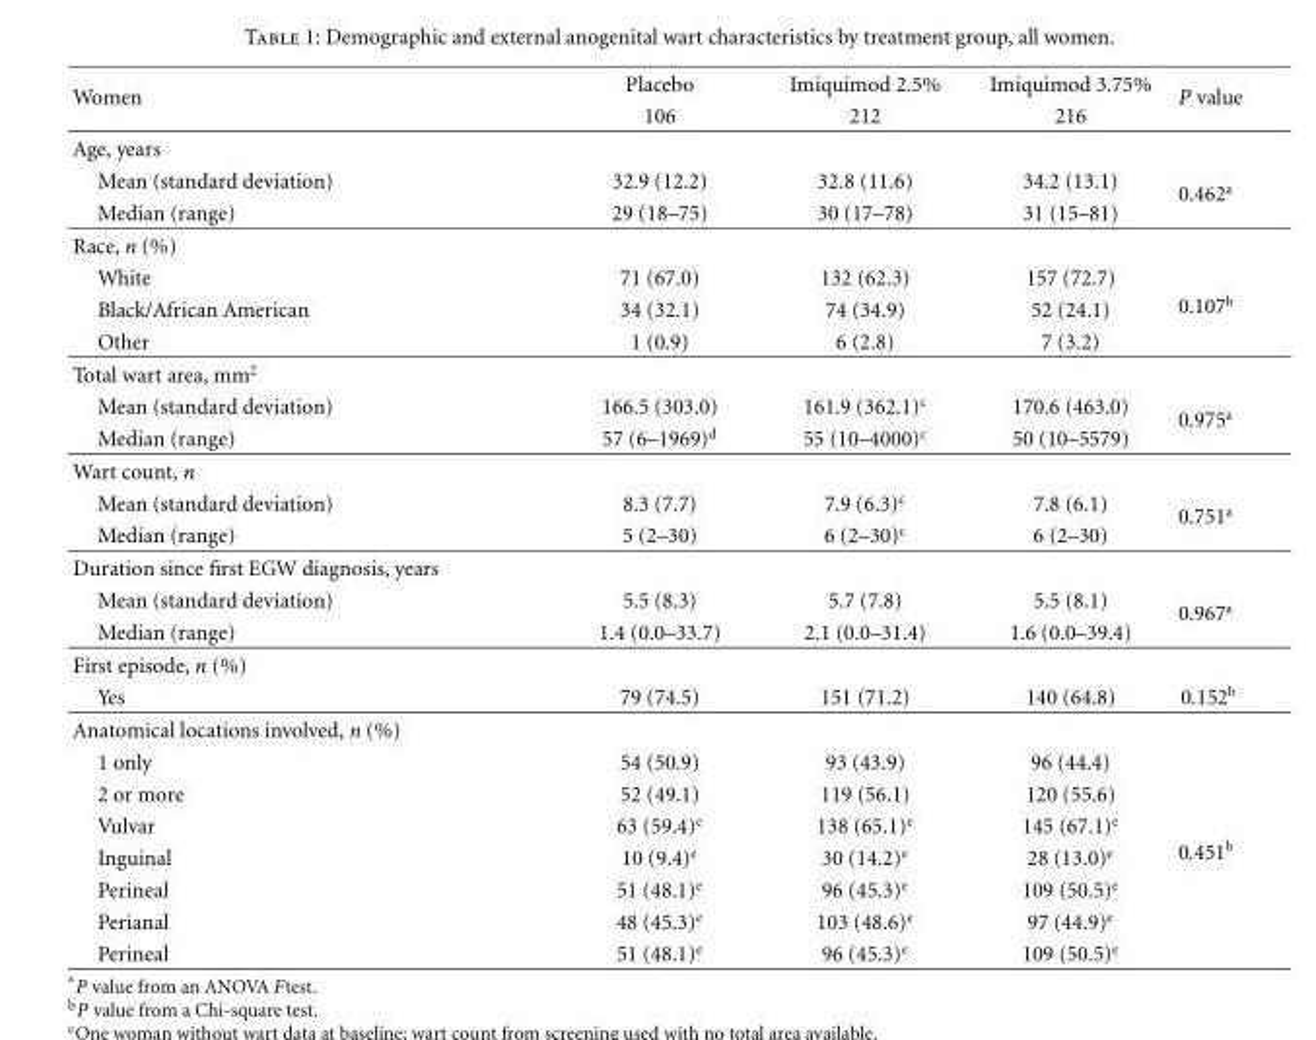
<table><thead><tr><td rowspan="2">Women</td><td rowspan="2">Placebo 106</td><td rowspan="2">Imiquimod 2.5% 212</td><td rowspan="2">Imiquimod 3.75% 216</td><td rowspan="2">P value</td></tr><tr></tr></thead><tbody><tr><td colspan="5">Age, years</td></tr><tr><td>Mean (standard deviation)</td><td>32.9 (12.2)</td><td>32.8 (11.6)</td><td>34.2 (13.1)</td><td rowspan="2">0.462a</td></tr><tr><td>Median (range)</td><td>29 (18–75)</td><td>30 (17–78)</td><td>31 (15–81)</td></tr><tr><td colspan="5">Race, n (%)</td></tr><tr><td>White</td><td>71 (67.0)</td><td>132 (62.3)</td><td>157 (72.7)</td><td rowspan="3">0.107<sup>b</sup></td></tr><tr><td>Black/African American</td><td>34 (32.1)</td><td>74 (34.9)</td><td>52 (24.1)</td></tr><tr><td>Other</td><td>1 (0.9)</td><td>6 (2.8)</td><td>7 (3.2)</td></tr><tr><td colspan="5">Total wart area, mm<sup>2</sup></td></tr><tr><td>Mean (standard deviation)</td><td>166.5 (303.0)</td><td>161.9 (362.1)<sup>c</sup></td><td>170.6 (463.0)</td><td rowspan="2">0.975<sup>a</sup></td></tr><tr><td>Median (range)</td><td>57 (6–1969)<sup>d</sup></td><td>55 (10–4000)<sup>c</sup></td><td>50 (10–5579)</td></tr><tr><td colspan="5">Wart count, n</td></tr><tr><td>Mean (standard deviation)</td><td>8.3 (7.7)</td><td>7.9 (6.3)<sup>c</sup></td><td>7.8 (6.1)</td><td rowspan="2">0.751<sup>a</sup></td></tr><tr><td>Median (range)</td><td>5 (2–30)</td><td>6 (2–30)<sup>c</sup></td><td>6 (2–30)</td></tr><tr><td colspan="5">Duration since first EGW diagnosis, years</td></tr><tr><td>Mean (standard deviation)</td><td>5.5 (8.3)</td><td>5.7 (7.8)</td><td>5.5 (8.1)</td><td rowspan="2">0.967<sup>a</sup></td></tr><tr><td>Median (range)</td><td>1.4 (0.0–33.7)</td><td>2.1 (0.0–31.4)</td><td>1.6 (0.0–39.4)</td></tr><tr><td colspan="5">First episode, n (%)</td></tr><tr><td>Yes</td><td>79 (74.5)</td><td>151 (71.2)</td><td>140 (64.8)</td><td>0.152<sup>b</sup></td></tr><tr><td colspan="5">Anatomical locations involved, n (%)</td></tr><tr><td>1 only</td><td>54 (50.9)</td><td>93 (43.9)</td><td>96 (44.4)</td><td rowspan="7">0.451<sup>b</sup></td></tr><tr><td>2 or more</td><td>52 (49.1)</td><td>119 (56.1)</td><td>120 (55.6)</td></tr><tr><td>Vulvar</td><td>63 (59.4)<sup>e</sup></td><td>138 (65.1)<sup>e</sup></td><td>145 (67.1)<sup>e</sup></td></tr><tr><td>Inguinal</td><td>10 (9.4)<sup>e</sup></td><td>30 (14.2)<sup>e</sup></td><td>28 (13.0)<sup>e</sup></td></tr><tr><td>Perineal</td><td>51 (48.1)<sup>e</sup></td><td>96 (45.3)<sup>e</sup></td><td>109 (50.5)<sup>e</sup></td></tr><tr><td>Perianal</td><td>48 (45.3)<sup>e</sup></td><td>103 (48.6)<sup>e</sup></td><td>97 (44.9)<sup>e</sup></td></tr><tr><td>Perineal</td><td>51 (48.1)<sup>e</sup></td><td>96 (45.3)<sup>e</sup></td><td>109 (50.5)<sup>e</sup></td></tr></tbody></table>